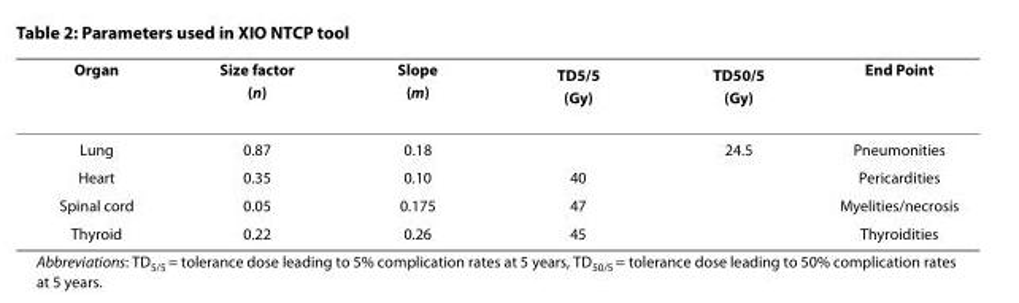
<table><thead><tr><td>Organ</td><td>Size factor (n)</td><td>Slope (m)</td><td>TD<sub>5/5</sub> (Gy)</td><td>TD<sub>50/5</sub> (Gy)</td><td>End Point</td></tr></thead><tbody><tr><td>Lung</td><td>0.87</td><td>0.18</td><td></td><td>24.5</td><td>Pneumonities</td></tr><tr><td>Heart</td><td>0.35</td><td>0.10</td><td>40</td><td></td><td>Pericardities</td></tr><tr><td>Spinal cord</td><td>0.05</td><td>0.175</td><td>47</td><td></td><td>Myelities/necrosis</td></tr><tr><td>Thyroid</td><td>0.22</td><td>0.26</td><td>45</td><td></td><td>Thyroidities</td></tr></tbody></table>